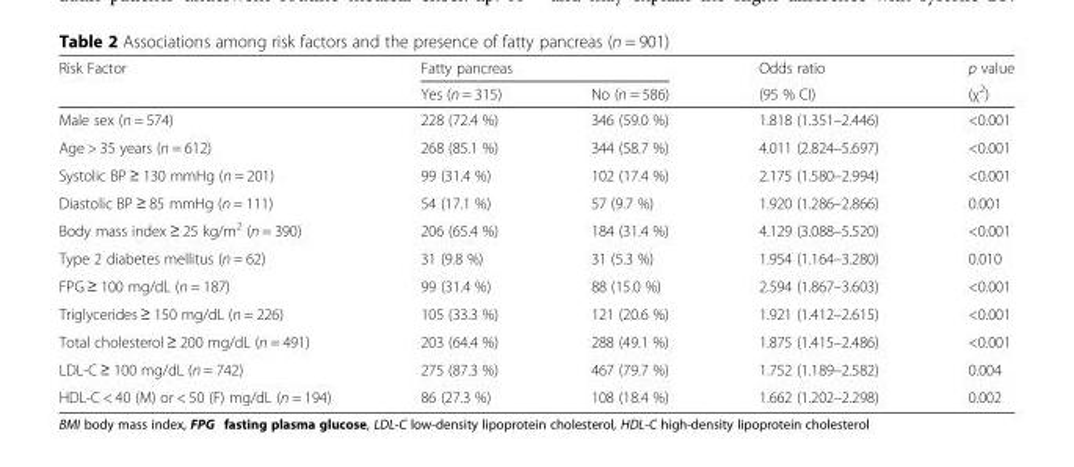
<table><thead><tr><td rowspan="2">Risk Factor</td><td colspan="2">Fatty pancreas</td><td rowspan="2">Odds ratio (95 % CI)</td><td rowspan="2">p value (χ<sup>2</sup>)</td></tr><tr><td>Yes (n = 315)</td><td>No (n = 586)</td></tr></thead><tbody><tr><td>Male sex (n = 574)</td><td>228 (72.4 %)</td><td>346 (59.0 %)</td><td>1.818 (1.351–2.446)</td><td>&lt;0.001</td></tr><tr><td>Age &gt; 35 years (n = 612)</td><td>268 (85.1 %)</td><td>344 (58.7 %)</td><td>4.011 (2.824–5.697)</td><td>&lt;0.001</td></tr><tr><td>Systolic BP ≥ 130 mmHg (n = 201)</td><td>99 (31.4 %)</td><td>102 (17.4 %)</td><td>2.175 (1.580–2.994)</td><td>&lt;0.001</td></tr><tr><td>Diastolic BP ≥ 85 mmHg (n = 111)</td><td>54 (17.1 %)</td><td>57 (9.7 %)</td><td>1.920 (1.286–2.866)</td><td>0.001</td></tr><tr><td>Body mass index ≥ 25 kg/m<sup>2</sup> (n = 390)</td><td>206 (65.4 %)</td><td>184 (31.4 %)</td><td>4.129 (3.088–5.520)</td><td>&lt;0.001</td></tr><tr><td>Type 2 diabetes mellitus (n = 62)</td><td>31 (9.8 %)</td><td>31 (5.3 %)</td><td>1.954 (1.164–3.280)</td><td>0.010</td></tr><tr><td>FPG ≥ 100 mg/dL (n = 187)</td><td>99 (31.4 %)</td><td>88 (15.0 %)</td><td>2.594 (1.867–3.603)</td><td>&lt;0.001</td></tr><tr><td>Triglycerides ≥ 150 mg/dL (n = 226)</td><td>105 (33.3 %)</td><td>121 (20.6 %)</td><td>1.921 (1.412–2.615)</td><td>&lt;0.001</td></tr><tr><td>Total cholesterol ≥ 200 mg/dL (n = 491)</td><td>203 (64.4 %)</td><td>288 (49.1 %)</td><td>1.875 (1.415–2.486)</td><td>&lt;0.001</td></tr><tr><td>LDL-C ≥ 100 mg/dL (n = 742)</td><td>275 (87.3 %)</td><td>467 (79.7 %)</td><td>1.752 (1.189–2.582)</td><td>0.004</td></tr><tr><td>HDL-C &lt; 40 (M) or &lt; 50 (F) mg/dL (n = 194)</td><td>86 (27.3 %)</td><td>108 (18.4 %)</td><td>1.662 (1.202–2.298)</td><td>0.002</td></tr></tbody></table>